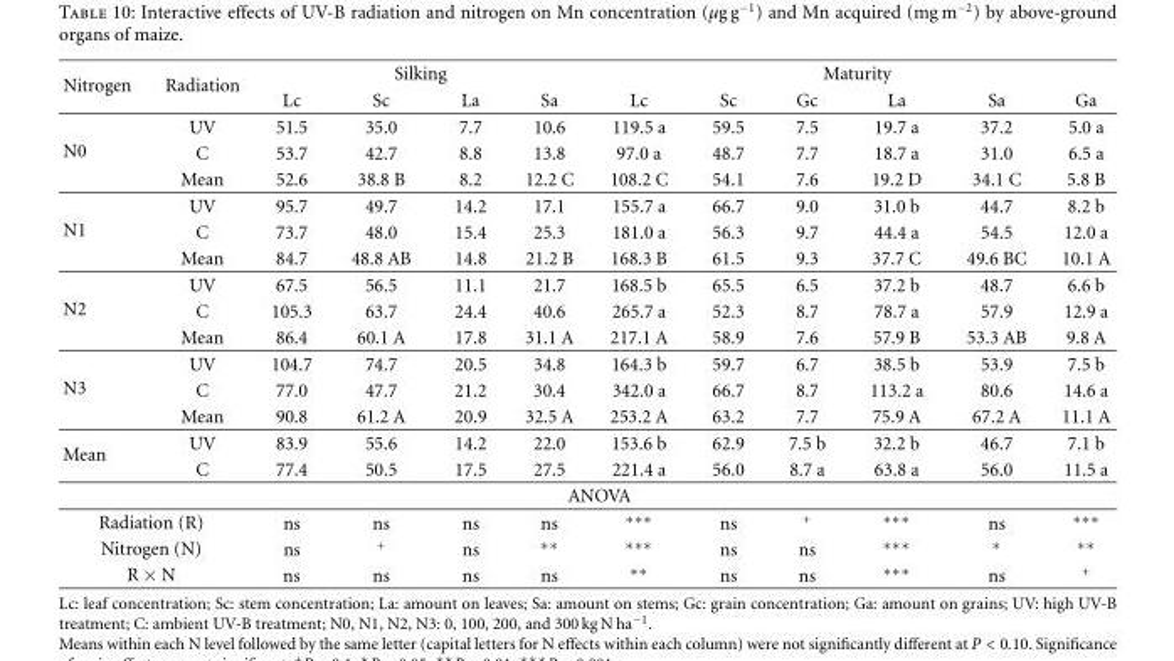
<table><thead><tr><td rowspan="2">Nitrogen</td><td rowspan="2">Radiation</td><td colspan="4">Silking</td><td colspan="6">Maturity</td></tr><tr><td>Lc</td><td>Sc</td><td>La</td><td>Sa</td><td>Lc</td><td>Sc</td><td>Gc</td><td>La</td><td>Sa</td><td>Ga</td></tr></thead><tbody><tr><td rowspan="3">N0</td><td>UV</td><td>51.5</td><td>35.0</td><td>7.7</td><td>10.6</td><td>119.5 a</td><td>59.5</td><td>7.5</td><td>19.7 a</td><td>37.2</td><td>5.0 a</td></tr><tr><td>C</td><td>53.7</td><td>42.7</td><td>8.8</td><td>13.8</td><td>97.0 a</td><td>48.7</td><td>7.7</td><td>18.7 a</td><td>31.0</td><td>6.5 a</td></tr><tr><td>Mean</td><td>52.6</td><td>38.8 B</td><td>8.2</td><td>12.2 C</td><td>108.2 C</td><td>54.1</td><td>7.6</td><td>19.2 D</td><td>34.1 C</td><td>5.8 B</td></tr><tr><td rowspan="3">N1</td><td>UV</td><td>95.7</td><td>49.7</td><td>14.2</td><td>17.1</td><td>155.7 a</td><td>66.7</td><td>9.0</td><td>31.0 b</td><td>44.7</td><td>8.2 b</td></tr><tr><td>C</td><td>73.7</td><td>48.0</td><td>15.4</td><td>25.3</td><td>181.0 a</td><td>56.3</td><td>9.7</td><td>44.4 a</td><td>54.5</td><td>12.0 a</td></tr><tr><td>Mean</td><td>84.7</td><td>48.8 AB</td><td>14.8</td><td>21.2 B</td><td>168.3 B</td><td>61.5</td><td>9.3</td><td>37.7 C</td><td>49.6 BC</td><td>10.1 A</td></tr><tr><td rowspan="3">N2</td><td>UV</td><td>67.5</td><td>56.5</td><td>11.1</td><td>21.7</td><td>168.5 b</td><td>65.5</td><td>6.5</td><td>37.2 b</td><td>48.7</td><td>6.6 b</td></tr><tr><td>C</td><td>105.3</td><td>63.7</td><td>24.4</td><td>40.6</td><td>265.7 a</td><td>52.3</td><td>8.7</td><td>78.7 a</td><td>57.9</td><td>12.9 a</td></tr><tr><td>Mean</td><td>86.4</td><td>60.1 A</td><td>17.8</td><td>31.1 A</td><td>217.1 A</td><td>58.9</td><td>7.6</td><td>57.9 B</td><td>53.3 AB</td><td>9.8 A</td></tr><tr><td rowspan="3">N3</td><td>UV</td><td>104.7</td><td>74.7</td><td>20.5</td><td>34.8</td><td>164.3 b</td><td>59.7</td><td>6.7</td><td>38.5 b</td><td>53.9</td><td>7.5 b</td></tr><tr><td>C</td><td>77.0</td><td>47.7</td><td>21.2</td><td>30.4</td><td>342.0 a</td><td>66.7</td><td>8.7</td><td>113.2 a</td><td>80.6</td><td>14.6 a</td></tr><tr><td>Mean</td><td>90.8</td><td>61.2 A</td><td>20.9</td><td>32.5 A</td><td>253.2 A</td><td>63.2</td><td>7.7</td><td>75.9 A</td><td>67.2 A</td><td>11.1 A</td></tr><tr><td rowspan="3">Mean</td><td>UV</td><td>83.9</td><td>55.6</td><td>14.2</td><td>22.0</td><td>153.6 b</td><td>62.9</td><td>7.5 b</td><td>32.2 b</td><td>46.7</td><td>7.1 b</td></tr><tr><td>C</td><td>77.4</td><td>50.5</td><td>17.5</td><td>27.5</td><td>221.4 a</td><td>56.0</td><td>8.7 a</td><td>63.8 a</td><td>56.0</td><td>11.5 a</td></tr><tr><td></td><td></td><td></td><td></td><td colspan="2">ANOVA</td><td></td><td></td><td></td><td></td><td></td></tr><tr><td colspan="2">Radiation (R)</td><td>ns</td><td>ns</td><td>ns</td><td>ns</td><td>∗∗∗</td><td>ns</td><td>+</td><td>∗∗∗</td><td>ns</td><td>∗∗∗</td></tr><tr><td colspan="2">Nitrogen (N)</td><td>ns</td><td>+</td><td>ns</td><td>∗∗</td><td>∗∗∗</td><td>ns</td><td>ns</td><td>∗∗∗</td><td>∗</td><td>∗∗</td></tr><tr><td colspan="2">R × N</td><td>ns</td><td>ns</td><td>ns</td><td>ns</td><td>∗∗</td><td>ns</td><td>ns</td><td>∗∗∗</td><td>ns</td><td>+</td></tr></tbody></table>